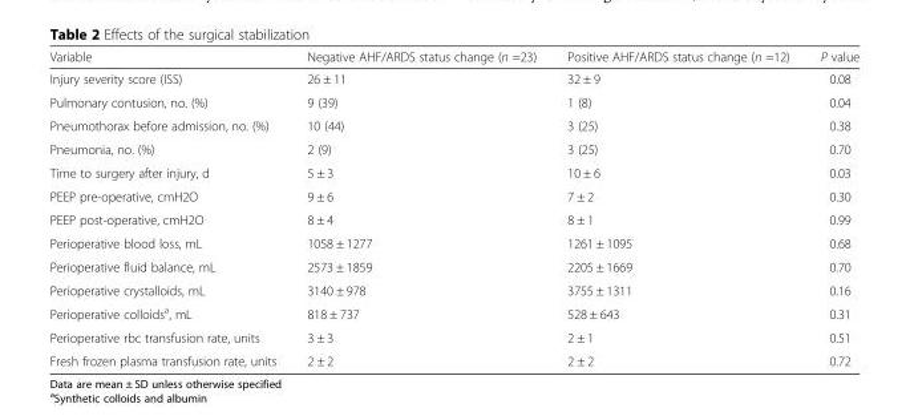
<table><thead><tr><td>Variable</td><td>Negative AHF/ARDS status change (n =23)</td><td>Positive AHF/ARDS status change (n =12)</td><td>P value</td></tr></thead><tbody><tr><td>Injury severity score (ISS)</td><td>26 ± 11</td><td>32 ± 9</td><td>0.08</td></tr><tr><td>Pulmonary contusion, no. (%)</td><td>9 (39)</td><td>1 (8)</td><td>0.04</td></tr><tr><td>Pneumothorax before admission, no. (%)</td><td>10 (44)</td><td>3 (25)</td><td>0.38</td></tr><tr><td>Pneumonia, no. (%)</td><td>2 (9)</td><td>3 (25)</td><td>0.70</td></tr><tr><td>Time to surgery after injury, d</td><td>5 ± 3</td><td>10 ± 6</td><td>0.03</td></tr><tr><td>PEEP pre-operative, cmH2O</td><td>9 ± 6</td><td>7 ± 2</td><td>0.30</td></tr><tr><td>PEEP post-operative, cmH2O</td><td>8 ± 4</td><td>8 ± 1</td><td>0.99</td></tr><tr><td>Perioperative blood loss, mL</td><td>1058 ± 1277</td><td>1261 ± 1095</td><td>0.68</td></tr><tr><td>Perioperative fluid balance, mL</td><td>2573 ± 1859</td><td>2205 ± 1669</td><td>0.70</td></tr><tr><td>Perioperative crystalloids, mL</td><td>3140 ± 978</td><td>3755 ± 1311</td><td>0.16</td></tr><tr><td>Perioperative colloids<sup>a</sup>, mL</td><td>818 ± 737</td><td>528 ± 643</td><td>0.31</td></tr><tr><td>Perioperative rbc transfusion rate, units</td><td>3 ± 3</td><td>2 ± 1</td><td>0.51</td></tr><tr><td>Fresh frozen plasma transfusion rate, units</td><td>2 ± 2</td><td>2 ± 2</td><td>0.72</td></tr></tbody></table>